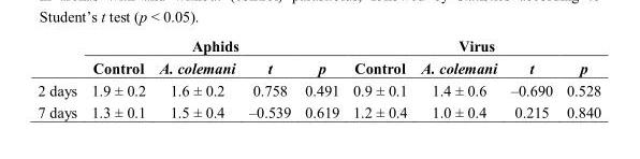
<table><thead><tr><td rowspan="2"></td><td colspan="4">Aphids</td><td colspan="4">Virus</td></tr><tr><td>Control</td><td>A. colemani</td><td>t</td><td>p</td><td>Control</td><td>A. colemani</td><td>t</td><td>p</td></tr></thead><tbody><tr><td>2 days</td><td>1.9 ± 0.2</td><td>1.6 ± 0.2</td><td>0.758</td><td>0.491</td><td>0.9 ± 0.1</td><td>1.4 ± 0.6</td><td>–0.690</td><td>0.528</td></tr><tr><td>7 days</td><td>1.3 ± 0.1</td><td>1.5 ± 0.4</td><td>–0.539</td><td>0.619</td><td>1.2 ± 0.4</td><td>1.0 ± 0.4</td><td>0.215</td><td>0.840</td></tr></tbody></table>